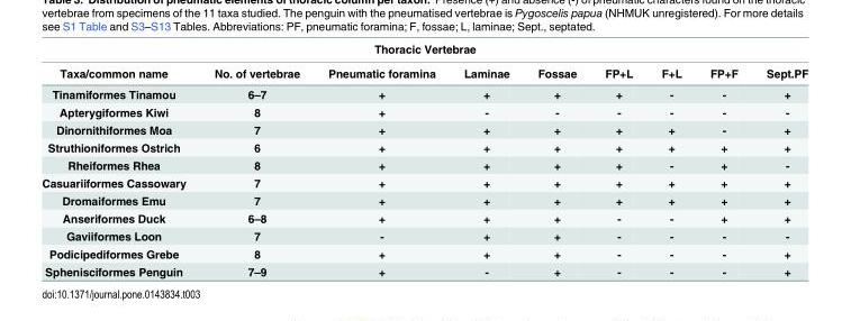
<table><thead><tr><td colspan="9">Thoracic Vertebrae</td></tr><tr><td>Taxa/common name</td><td>No. of vertebrae</td><td>Pneumatic foramina</td><td>Laminae</td><td>Fossae</td><td>FP+L</td><td>F+L</td><td>FP+F</td><td>Sept.PF</td></tr></thead><tbody><tr><td>Tinamiformes Tinamou</td><td>6–7</td><td>+</td><td>+</td><td>+</td><td>+</td><td>-</td><td>-</td><td>+</td></tr><tr><td>Apterygiformes Kiwi</td><td>8</td><td>+</td><td>-</td><td>-</td><td>-</td><td>-</td><td>-</td><td>-</td></tr><tr><td>Dinornithiformes Moa</td><td>7</td><td>+</td><td>+</td><td>+</td><td>+</td><td>+</td><td>-</td><td>+</td></tr><tr><td>Struthioniformes Ostrich</td><td>6</td><td>+</td><td>+</td><td>+</td><td>+</td><td>+</td><td>+</td><td>+</td></tr><tr><td>Rheiformes Rhea</td><td>8</td><td>+</td><td>+</td><td>+</td><td>+</td><td>-</td><td>+</td><td>-</td></tr><tr><td>Casuariiformes Cassowary</td><td>7</td><td>+</td><td>+</td><td>+</td><td>+</td><td>+</td><td>+</td><td>+</td></tr><tr><td>Dromaiformes Emu</td><td>7</td><td>+</td><td>+</td><td>+</td><td>+</td><td>+</td><td>+</td><td>+</td></tr><tr><td>Anseriformes Duck</td><td>6–8</td><td>+</td><td>+</td><td>+</td><td>-</td><td>-</td><td>+</td><td>+</td></tr><tr><td>Gaviiformes Loon</td><td>7</td><td>-</td><td>+</td><td>+</td><td>-</td><td>-</td><td>-</td><td>-</td></tr><tr><td>Podicipediformes Grebe</td><td>8</td><td>+</td><td>+</td><td>+</td><td>-</td><td>-</td><td>-</td><td>+</td></tr><tr><td>Sphenisciformes Penguin</td><td>7–9</td><td>+</td><td>-</td><td>+</td><td>-</td><td>-</td><td>-</td><td>+</td></tr></tbody></table>